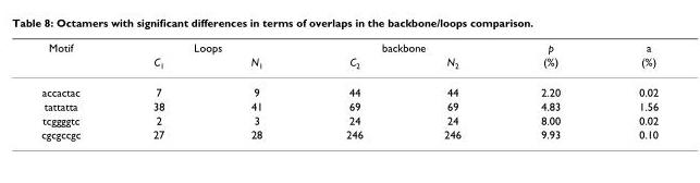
<table><thead><tr><td rowspan="2">Motif</td><td colspan="2">Loops</td><td colspan="2">backbone</td><td rowspan="2">p (%)</td><td rowspan="2">a (%)</td></tr><tr><td>C<sub>1</sub></td><td>N<sub>1</sub></td><td>C<sub>2</sub></td><td>N<sub>2</sub></td></tr></thead><tbody><tr><td>accactac</td><td>7</td><td>9</td><td>44</td><td>44</td><td>2.20</td><td>0.02</td></tr><tr><td>tattatta</td><td>38</td><td>41</td><td>69</td><td>69</td><td>4.83</td><td>1.56</td></tr><tr><td>tcggggtc</td><td>2</td><td>3</td><td>24</td><td>24</td><td>8.00</td><td>0.02</td></tr><tr><td>cgcgccgc</td><td>27</td><td>28</td><td>246</td><td>246</td><td>9.93</td><td>0.10</td></tr></tbody></table>